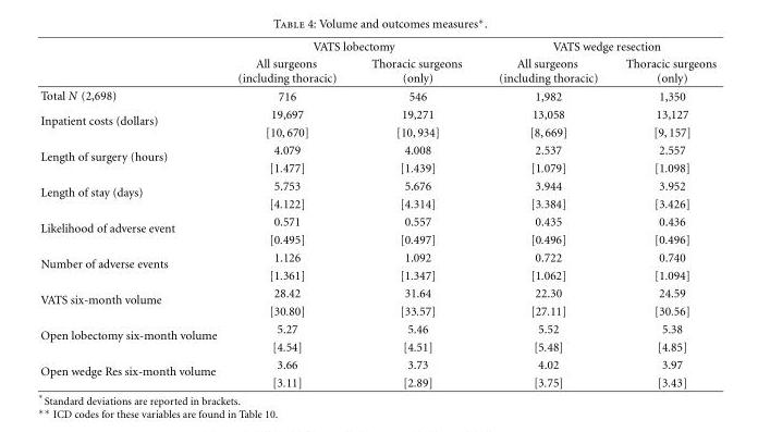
<table><thead><tr><td rowspan="2"></td><td colspan="2">VATS lobectomy</td><td colspan="2">VATS wedge resection</td></tr><tr><td>All surgeons (including thoracic)</td><td>Thoracic surgeons (only)</td><td>All surgeons (including thoracic)</td><td>Thoracic surgeons (only)</td></tr></thead><tbody><tr><td>Total N (2,698)</td><td>716</td><td>546</td><td>1,982</td><td>1,350</td></tr><tr><td rowspan="2">Inpatient costs (dollars)</td><td>19,697</td><td>19,271</td><td>13,058</td><td>13,127</td></tr><tr><td>[10,670]</td><td>[10,934]</td><td>[8,669]</td><td>[9,157]</td></tr><tr><td rowspan="2">Length of surgery (hours)</td><td>4.079</td><td>4.008</td><td>2.537</td><td>2.557</td></tr><tr><td>[1.477]</td><td>[1.439]</td><td>[1.079]</td><td>[1.098]</td></tr><tr><td rowspan="2">Length of stay (days)</td><td>5.753</td><td>5.676</td><td>3.944</td><td>3.952</td></tr><tr><td>[4.122]</td><td>[4.314]</td><td>[3.384]</td><td>[3.426]</td></tr><tr><td rowspan="2">Likelihood of adverse event</td><td>0.571</td><td>0.557</td><td>0.435</td><td>0.436</td></tr><tr><td>[0.495]</td><td>[0.497]</td><td>[0.496]</td><td>[0.496]</td></tr><tr><td rowspan="2">Number of adverse events</td><td>1.126</td><td>1.092</td><td>0.722</td><td>0.740</td></tr><tr><td>[1.361]</td><td>[1.347]</td><td>[1.062]</td><td>[1.094]</td></tr><tr><td rowspan="2">VATS six-month volume</td><td>28.42</td><td>31.64</td><td>22.30</td><td>24.59</td></tr><tr><td>[30.80]</td><td>[33.57]</td><td>[27.11]</td><td>[30.56]</td></tr><tr><td rowspan="2">Open lobectomy six-month volume</td><td>5.27</td><td>5.46</td><td>5.52</td><td>5.38</td></tr><tr><td>[4.54]</td><td>[4.51]</td><td>[5.48]</td><td>[4.85]</td></tr><tr><td rowspan="2">Open wedge Res six-month volume</td><td>3.66</td><td>3.73</td><td>4.02</td><td>3.97</td></tr><tr><td>[3.11]</td><td>[2.89]</td><td>[3.75]</td><td>[3.43]</td></tr></tbody></table>